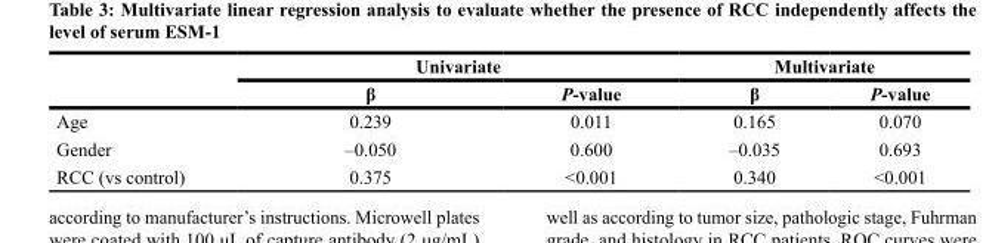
<table><thead><tr><td rowspan="2"></td><td colspan="2">Univariate</td><td colspan="2">Multivariate</td></tr><tr><td>β</td><td>P-value</td><td>β</td><td>P-value</td></tr></thead><tbody><tr><td>Age</td><td>0.239</td><td>0.011</td><td>0.165</td><td>0.070</td></tr><tr><td>Gender</td><td>–0.050</td><td>0.600</td><td>–0.035</td><td>0.693</td></tr><tr><td>RCC (vs control)</td><td>0.375</td><td>&lt;0.001</td><td>0.340</td><td>&lt;0.001</td></tr></tbody></table>